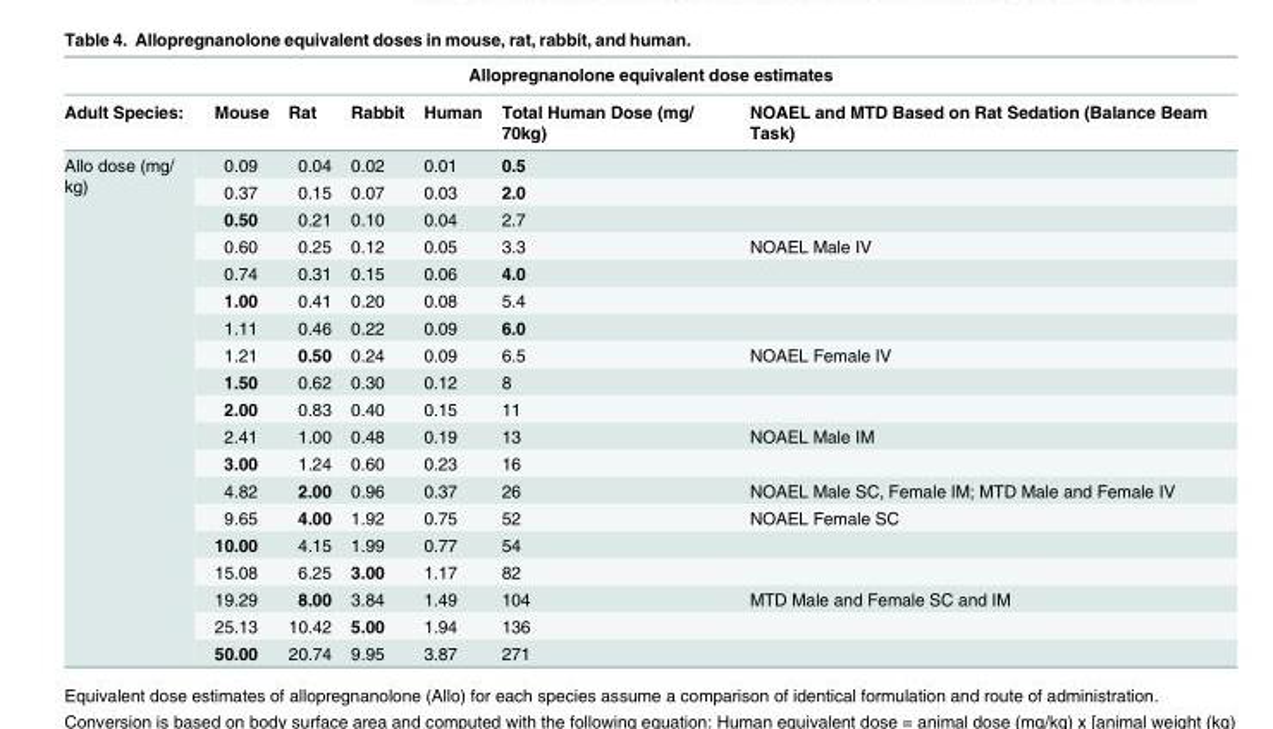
<table><thead><tr><td colspan="7">Allopregnanolone equivalent dose estimates</td></tr><tr><td>Adult Species:</td><td>Mouse</td><td>Rat</td><td>Rabbit</td><td>Human</td><td>Total Human Dose (mg/ 70kg)</td><td>NOAEL and MTD Based on Rat Sedation (Balance Beam Task)</td></tr></thead><tbody><tr><td rowspan="19">Allo dose (mg/ kg)</td><td>0.09</td><td>0.04</td><td>0.02</td><td>0.01</td><td>0.5</td><td></td></tr><tr><td>0.37</td><td>0.15</td><td>0.07</td><td>0.03</td><td>2.0</td><td></td></tr><tr><td>0.50</td><td>0.21</td><td>0.10</td><td>0.04</td><td>2.7</td><td></td></tr><tr><td>0.60</td><td>0.25</td><td>0.12</td><td>0.05</td><td>3.3</td><td>NOAEL Male IV</td></tr><tr><td>0.74</td><td>0.31</td><td>0.15</td><td>0.06</td><td>4.0</td><td></td></tr><tr><td>1.00</td><td>0.41</td><td>0.20</td><td>0.08</td><td>5.4</td><td></td></tr><tr><td>1.11</td><td>0.46</td><td>0.22</td><td>0.09</td><td>6.0</td><td></td></tr><tr><td>1.21</td><td>0.50</td><td>0.24</td><td>0.09</td><td>6.5</td><td>NOAEL Female IV</td></tr><tr><td>1.50</td><td>0.62</td><td>0.30</td><td>0.12</td><td>8</td><td></td></tr><tr><td>2.00</td><td>0.83</td><td>0.40</td><td>0.15</td><td>11</td><td></td></tr><tr><td>2.41</td><td>1.00</td><td>0.48</td><td>0.19</td><td>13</td><td>NOAEL Male IM</td></tr><tr><td>3.00</td><td>1.24</td><td>0.60</td><td>0.23</td><td>16</td><td></td></tr><tr><td>4.82</td><td>2.00</td><td>0.96</td><td>0.37</td><td>26</td><td>NOAEL Male SC, Female IM; MTD Male and Female IV</td></tr><tr><td>9.65</td><td>4.00</td><td>1.92</td><td>0.75</td><td>52</td><td>NOAEL Female SC</td></tr><tr><td>10.00</td><td>4.15</td><td>1.99</td><td>0.77</td><td>54</td><td></td></tr><tr><td>15.08</td><td>6.25</td><td>3.00</td><td>1.17</td><td>82</td><td></td></tr><tr><td>19.29</td><td>8.00</td><td>3.84</td><td>1.49</td><td>104</td><td>MTD Male and Female SC and IM</td></tr><tr><td>25.13</td><td>10.42</td><td>5.00</td><td>1.94</td><td>136</td><td></td></tr><tr><td>50.00</td><td>20.74</td><td>9.95</td><td>3.87</td><td>271</td><td></td></tr></tbody></table>